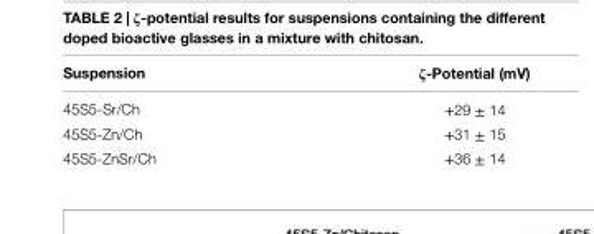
<table><thead><tr><td>suspension</td><td>ζ-Potential (mV)</td></tr></thead><tbody><tr><td>45S5-Sr/Ch</td><td>+29 ± 14</td></tr><tr><td>45S5-Zn/Ch</td><td>+31 ± 15</td></tr><tr><td>45S5-ZnSr/Ch</td><td>+36 ± 14</td></tr></tbody></table>